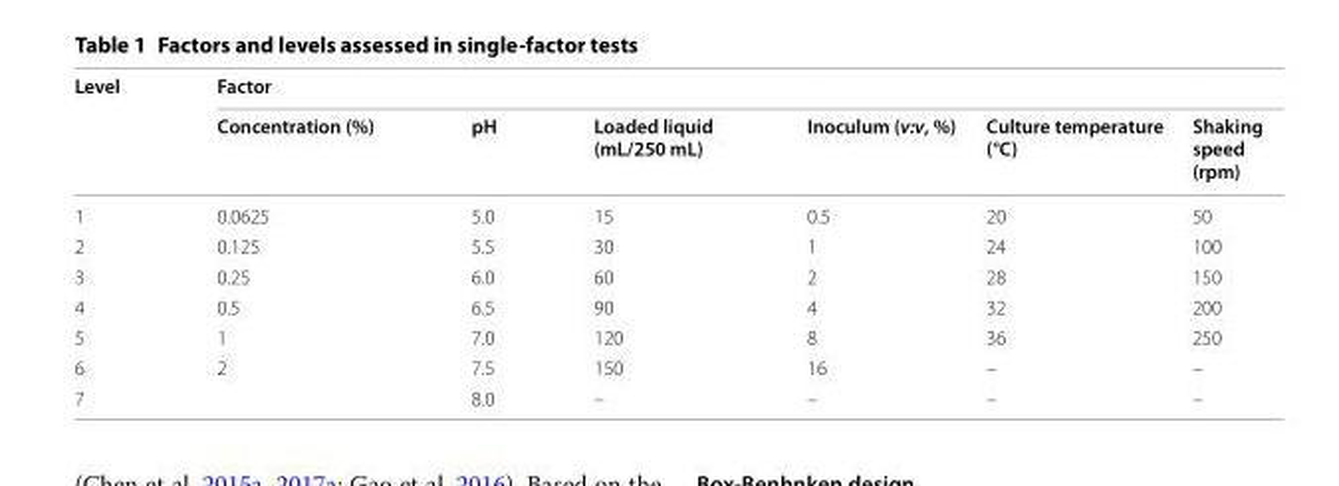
<table><thead><tr><td rowspan="2">Level</td><td colspan="6">Factor</td></tr><tr><td>Concentration (%)</td><td>pH</td><td>Loaded liquid (mL/250 mL)</td><td>Inoculum (v:v, %)</td><td>Culture temperature (°C)</td><td>Shaking speed (rpm)</td></tr></thead><tbody><tr><td>1</td><td>0.0625</td><td>5.0</td><td>15</td><td>0.5</td><td>20</td><td>50</td></tr><tr><td>2</td><td>0.125</td><td>5.5</td><td>30</td><td>1</td><td>24</td><td>100</td></tr><tr><td>3</td><td>0.25</td><td>6.0</td><td>60</td><td>2</td><td>28</td><td>150</td></tr><tr><td>4</td><td>0.5</td><td>6.5</td><td>90</td><td>4</td><td>32</td><td>200</td></tr><tr><td>5</td><td>1</td><td>7.0</td><td>120</td><td>8</td><td>36</td><td>250</td></tr><tr><td>6</td><td>2</td><td>7.5</td><td>150</td><td>16</td><td>–</td><td>–</td></tr><tr><td>7</td><td></td><td>8.0</td><td>–</td><td>–</td><td>–</td><td>–</td></tr></tbody></table>